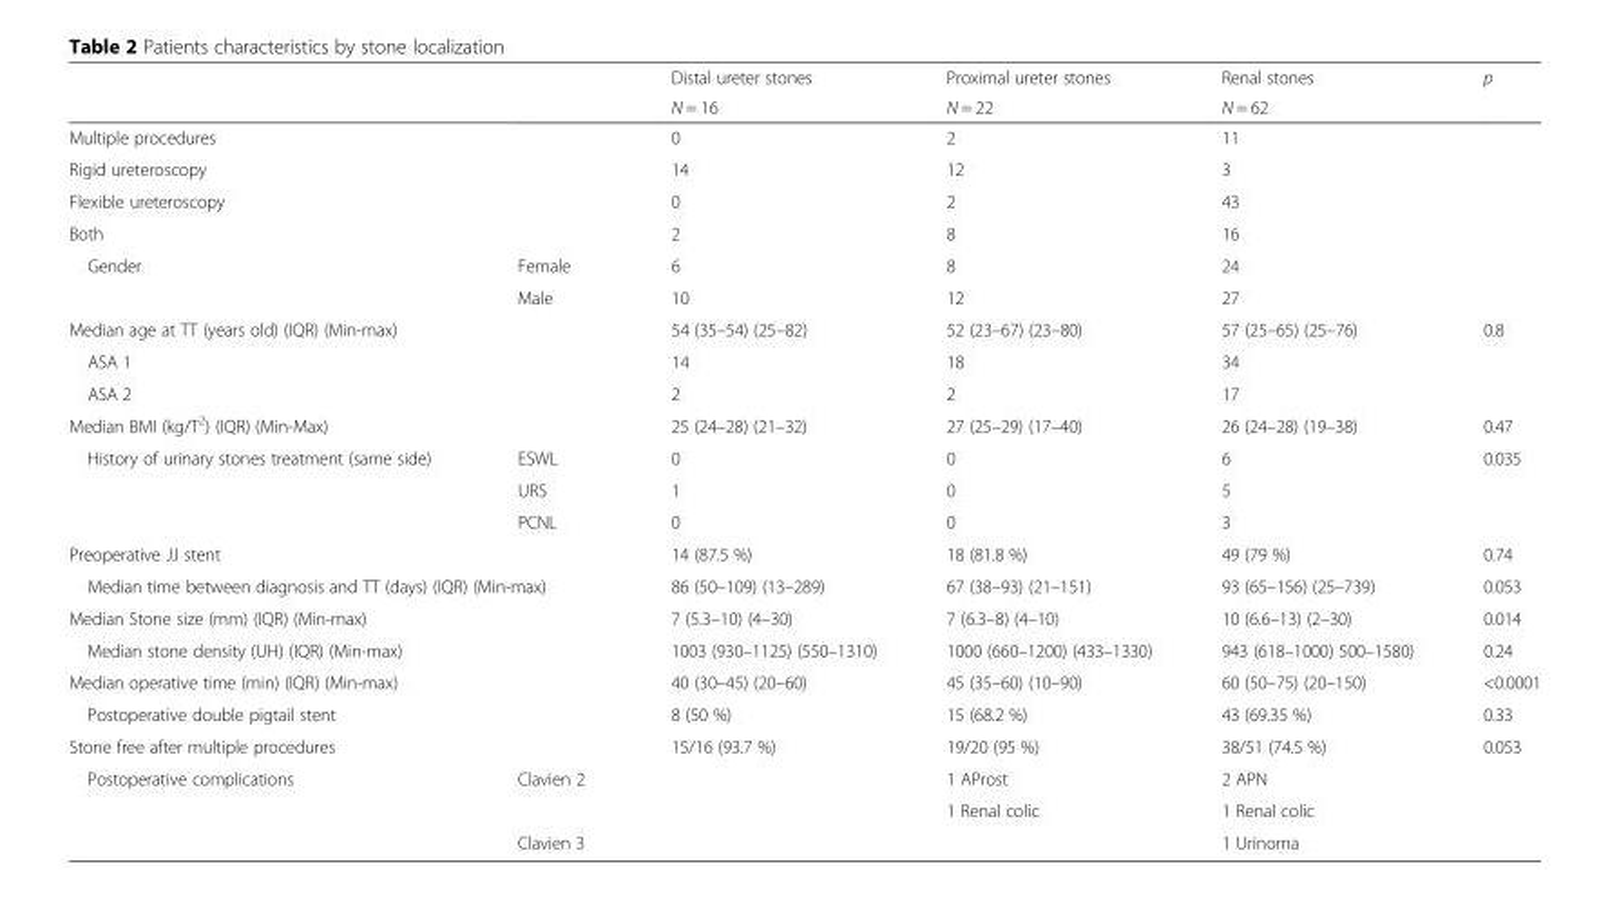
<table><thead><tr><td rowspan="2"></td><td rowspan="2"></td><td rowspan="2">Distal ureter stones N = 16</td><td rowspan="2">Proximal ureter stones N = 22</td><td rowspan="2">Renal stones N = 62</td><td rowspan="2">p</td></tr><tr></tr></thead><tbody><tr><td>Multiple procedures</td><td></td><td>0</td><td>2</td><td>11</td><td></td></tr><tr><td colspan="2">Rigid ureteroscopy</td><td>14</td><td>12</td><td>3</td><td rowspan="3"></td></tr><tr><td colspan="2">Flexible ureteroscopy</td><td>0</td><td>2</td><td>43</td></tr><tr><td colspan="2">Both</td><td>2</td><td>8</td><td>16</td></tr><tr><td rowspan="2">Gender</td><td>Female</td><td>6</td><td>8</td><td>24</td><td rowspan="2"></td></tr><tr><td>Male</td><td>10</td><td>12</td><td>27</td></tr><tr><td colspan="2">Median age at TT (years old) (IQR) (Min-max)</td><td>54 (35–54) (25–82)</td><td>52 (23–67) (23–80)</td><td>57 (25–65) (25–76)</td><td>0.8</td></tr><tr><td>ASA 1</td><td></td><td>14</td><td>18</td><td>34</td><td rowspan="2"></td></tr><tr><td>ASA 2</td><td></td><td>2</td><td>2</td><td>17</td></tr><tr><td colspan="2">Median BMI (kg/T<sup>2</sup>) (IQR) (Min-Max)</td><td>25 (24–28) (21–32)</td><td>27 (25–29) (17–40)</td><td>26 (24–28) (19–38)</td><td>0.47</td></tr><tr><td rowspan="3">History of urinary stones treatment (same side)</td><td>ESWL</td><td>0</td><td>0</td><td>6</td><td rowspan="3">0.035</td></tr><tr><td>URS</td><td>1</td><td>0</td><td>5</td></tr><tr><td>PCNL</td><td>0</td><td>0</td><td>3</td></tr><tr><td colspan="2">Preoperative JJ stent</td><td>14 (87.5 %)</td><td>18 (81.8 %)</td><td>49 (79 %)</td><td>0.74</td></tr><tr><td colspan="2">Median time between diagnosis and TT (days) (IQR) (Min-max)</td><td>86 (50–109) (13–289)</td><td>67 (38–93) (21–151)</td><td>93 (65–156) (25–739)</td><td>0.053</td></tr><tr><td colspan="2">Median Stone size (mm) (IQR) (Min-max)</td><td>7 (5.3–10) (4–30)</td><td>7 (6.3–8) (4–10)</td><td>10 (6.6–13) (2–30)</td><td>0.014</td></tr><tr><td>Median stone density (UH) (IQR) (Min-max)</td><td></td><td>1003 (930–1125) (550–1310)</td><td>1000 (660–1200) (433–1330)</td><td>943 (618–1000) 500–1580)</td><td>0.24</td></tr><tr><td>Median operative time (min) (IQR) (Min-max)</td><td></td><td>40 (30–45) (20–60)</td><td>45 (35–60) (10–90)</td><td>60 (50–75) (20–150)</td><td>&lt;0.0001</td></tr><tr><td colspan="2">Postoperative double pigtail stent</td><td>8 (50 %)</td><td>15 (68.2 %)</td><td>43 (69.35 %)</td><td>0.33</td></tr><tr><td colspan="2">Stone free after multiple procedures</td><td>15/16 (93.7 %)</td><td>19/20 (95 %)</td><td>38/51 (74.5 %)</td><td>0.053</td></tr><tr><td rowspan="3">Postoperative complications</td><td rowspan="2">Clavien 2</td><td rowspan="2"></td><td>1 AProst</td><td>2 APN</td><td rowspan="2"></td></tr><tr><td>1 Renal colic</td><td>1 Renal colic</td></tr><tr><td>Clavien 3</td><td></td><td></td><td>1 Urinoma</td><td></td></tr></tbody></table>